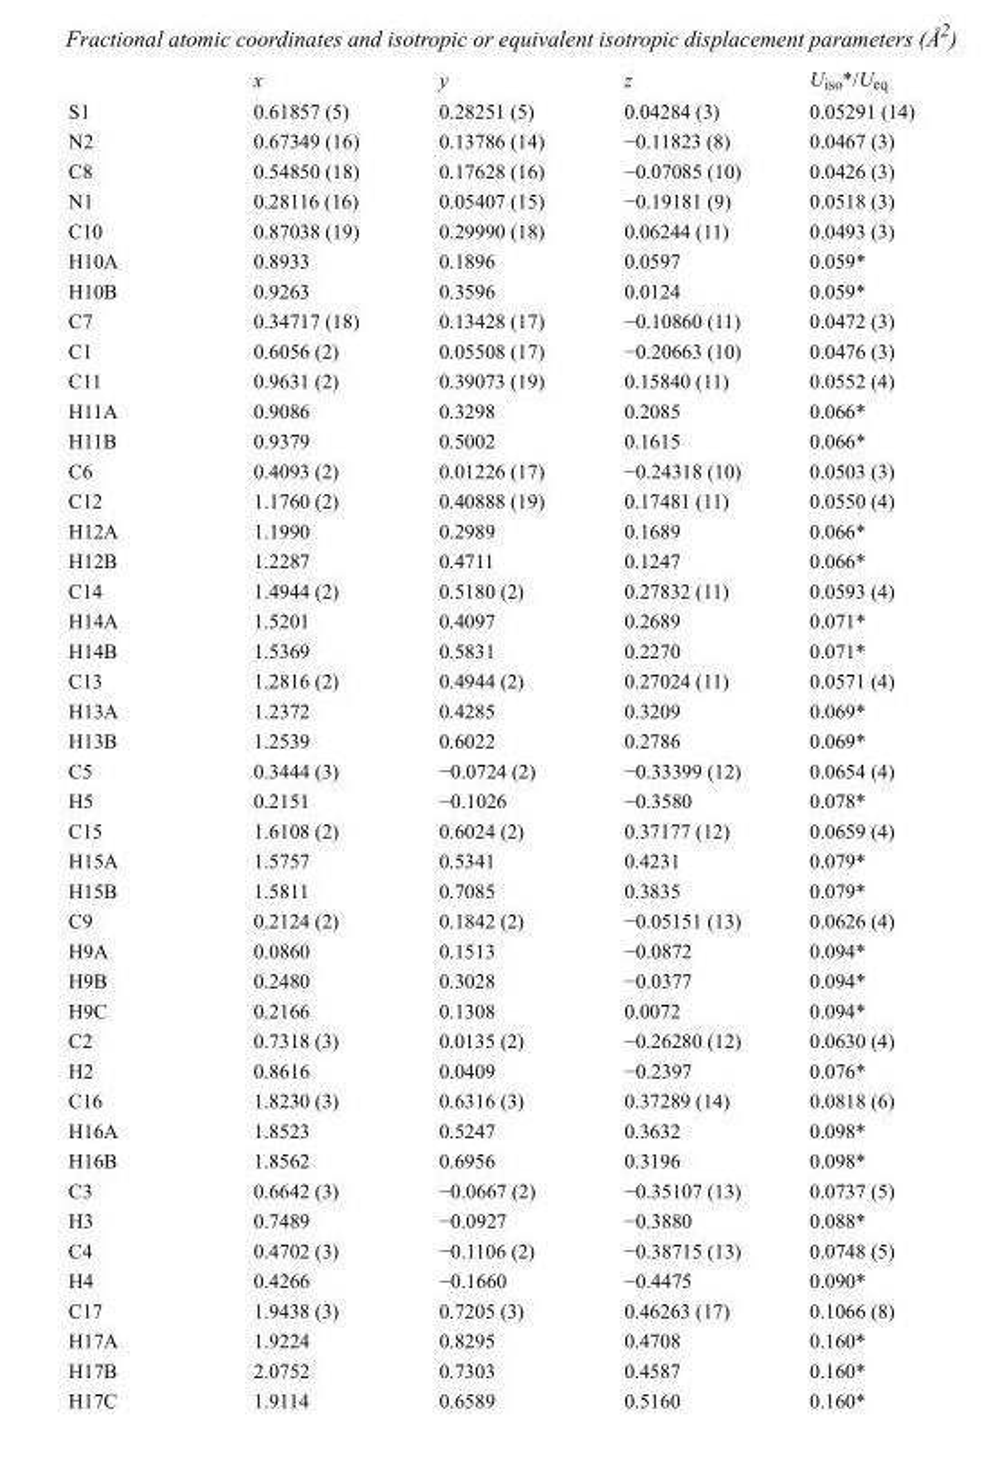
<table><thead><tr><td></td><td>x</td><td>y</td><td>z</td><td>U<sub>iso</sub>*/U<sub>eq</sub></td></tr></thead><tbody><tr><td>S1</td><td>0.61857 (5)</td><td>0.28251 (5)</td><td>0.04284 (3)</td><td>0.05291 (14)</td></tr><tr><td>N2</td><td>0.67349 (16)</td><td>0.13786 (14)</td><td>−0.11823 (8)</td><td>0.0467 (3)</td></tr><tr><td>C8</td><td>0.54850 (18)</td><td>0.17628 (16)</td><td>−0.07085 (10)</td><td>0.0426 (3)</td></tr><tr><td>N1</td><td>0.28116 (16)</td><td>0.05407 (15)</td><td>−0.19181 (9)</td><td>0.0518 (3)</td></tr><tr><td>C10</td><td>0.87038 (19)</td><td>0.29990 (18)</td><td>0.06244 (11)</td><td>0.0493 (3)</td></tr><tr><td>H10A</td><td>0.8933</td><td>0.1896</td><td>0.0597</td><td>0.059*</td></tr><tr><td>H10B</td><td>0.9263</td><td>0.3596</td><td>0.0124</td><td>0.059*</td></tr><tr><td>C7</td><td>0.34717 (18)</td><td>0.13428 (17)</td><td>−0.10860 (11)</td><td>0.0472 (3)</td></tr><tr><td>C1</td><td>0.6056 (2)</td><td>0.05508 (17)</td><td>−0.20663 (10)</td><td>0.0476 (3)</td></tr><tr><td>C11</td><td>0.9631 (2)</td><td>0.39073 (19)</td><td>0.15840 (11)</td><td>0.0552 (4)</td></tr><tr><td>H11A</td><td>0.9086</td><td>0.3298</td><td>0.2085</td><td>0.066*</td></tr><tr><td>H11B</td><td>0.9379</td><td>0.5002</td><td>0.1615</td><td>0.066*</td></tr><tr><td>C6</td><td>0.4093 (2)</td><td>0.01226 (17)</td><td>−0.24318 (10)</td><td>0.0503 (3)</td></tr><tr><td>C12</td><td>1.1760 (2)</td><td>0.40888 (19)</td><td>0.17481 (11)</td><td>0.0550 (4)</td></tr><tr><td>H12A</td><td>1.1990</td><td>0.2989</td><td>0.1689</td><td>0.066*</td></tr><tr><td>H12B</td><td>1.2287</td><td>0.4711</td><td>0.1247</td><td>0.066*</td></tr><tr><td>C14</td><td>1.4944 (2)</td><td>0.5180 (2)</td><td>0.27832 (11)</td><td>0.0593 (4)</td></tr><tr><td>H14A</td><td>1.5201</td><td>0.4097</td><td>0.2689</td><td>0.071*</td></tr><tr><td>H14B</td><td>1.5369</td><td>0.5831</td><td>0.2270</td><td>0.071*</td></tr><tr><td>C13</td><td>1.2816 (2)</td><td>0.4944 (2)</td><td>0.27024 (11)</td><td>0.0571 (4)</td></tr><tr><td>H13A</td><td>1.2372</td><td>0.4285</td><td>0.3209</td><td>0.069*</td></tr><tr><td>H13B</td><td>1.2539</td><td>0.6022</td><td>0.2786</td><td>0.069*</td></tr><tr><td>C5</td><td>0.3444 (3)</td><td>−0.0724 (2)</td><td>−0.33399 (12)</td><td>0.0654 (4)</td></tr><tr><td>H5</td><td>0.2151</td><td>−0.1026</td><td>−0.3580</td><td>0.078*</td></tr><tr><td>C15</td><td>1.6108 (2)</td><td>0.6024 (2)</td><td>0.37177 (12)</td><td>0.0659 (4)</td></tr><tr><td>H15A</td><td>1.5757</td><td>0.5341</td><td>0.4231</td><td>0.079*</td></tr><tr><td>H15B</td><td>1.5811</td><td>0.7085</td><td>0.3835</td><td>0.079*</td></tr><tr><td>C9</td><td>0.2124 (2)</td><td>0.1842 (2)</td><td>−0.05151 (13)</td><td>0.0626 (4)</td></tr><tr><td>H9A</td><td>0.0860</td><td>0.1513</td><td>−0.0872</td><td>0.094*</td></tr><tr><td>H9B</td><td>0.2480</td><td>0.3028</td><td>−0.0377</td><td>0.094*</td></tr><tr><td>H9C</td><td>0.2166</td><td>0.1308</td><td>0.0072</td><td>0.094*</td></tr><tr><td>C2</td><td>0.7318 (3)</td><td>0.0135 (2)</td><td>−0.26280 (12)</td><td>0.0630 (4)</td></tr><tr><td>H2</td><td>0.8616</td><td>0.0409</td><td>−0.2397</td><td>0.076*</td></tr><tr><td>C16</td><td>1.8230 (3)</td><td>0.6316 (3)</td><td>0.37289 (14)</td><td>0.0818 (6)</td></tr><tr><td>H16A</td><td>1.8523</td><td>0.5247</td><td>0.3632</td><td>0.098*</td></tr><tr><td>H16B</td><td>1.8562</td><td>0.6956</td><td>0.3196</td><td>0.098*</td></tr><tr><td>C3</td><td>0.6642 (3)</td><td>−0.0667 (2)</td><td>−0.35107 (13)</td><td>0.0737 (5)</td></tr><tr><td>H3</td><td>0.7489</td><td>−0.0927</td><td>−0.3880</td><td>0.088*</td></tr><tr><td>C4</td><td>0.4702 (3)</td><td>−0.1106 (2)</td><td>−0.38715 (13)</td><td>0.0748 (5)</td></tr><tr><td>H4</td><td>0.4266</td><td>−0.1660</td><td>−0.4475</td><td>0.090*</td></tr><tr><td>C17</td><td>1.9438 (3)</td><td>0.7205 (3)</td><td>0.46263 (17)</td><td>0.1066 (8)</td></tr><tr><td>H17A</td><td>1.9224</td><td>0.8295</td><td>0.4708</td><td>0.160*</td></tr><tr><td>H17B</td><td>2.0752</td><td>0.7303</td><td>0.4587</td><td>0.160*</td></tr><tr><td>H17C</td><td>1.9114</td><td>0.6589</td><td>0.5160</td><td>0.160*</td></tr></tbody></table>